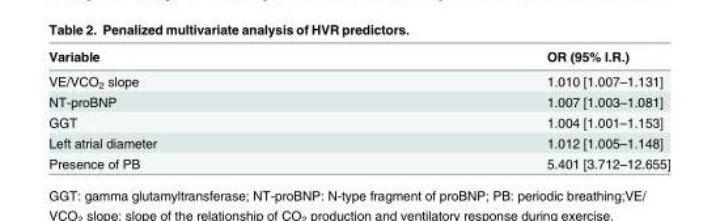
<table><thead><tr><td>Variable</td><td>OR (95% I.R.)</td></tr></thead><tbody><tr><td>VE/VCO<sub>2</sub> slope</td><td>1.010 [1.007–1.131]</td></tr><tr><td>NT-proBNP</td><td>1.007 [1.003–1.081]</td></tr><tr><td>GGT</td><td>1.004 [1.001–1.153]</td></tr><tr><td>Left atrial diameter</td><td>1.012 [1.005–1.148]</td></tr><tr><td>Presence of PB</td><td>5.401 [3.712–12.655]</td></tr></tbody></table>